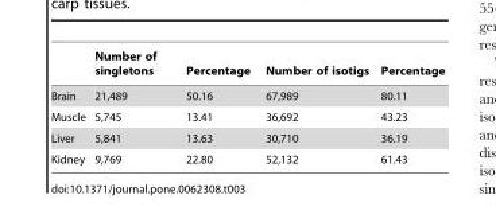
<table><thead><tr><td></td><td>Number of singletons</td><td>Percentage</td><td>Number of isotigs</td><td>Percentage</td></tr></thead><tbody><tr><td>Brain</td><td>21,489</td><td>50.16</td><td>67,989</td><td>80.11</td></tr><tr><td>Muscle</td><td>5,745</td><td>13.41</td><td>36,692</td><td>43.23</td></tr><tr><td>Liver</td><td>5,841</td><td>13.63</td><td>30,710</td><td>36.19</td></tr><tr><td>Kidney</td><td>9,769</td><td>22.80</td><td>52,132</td><td>61.43</td></tr></tbody></table>